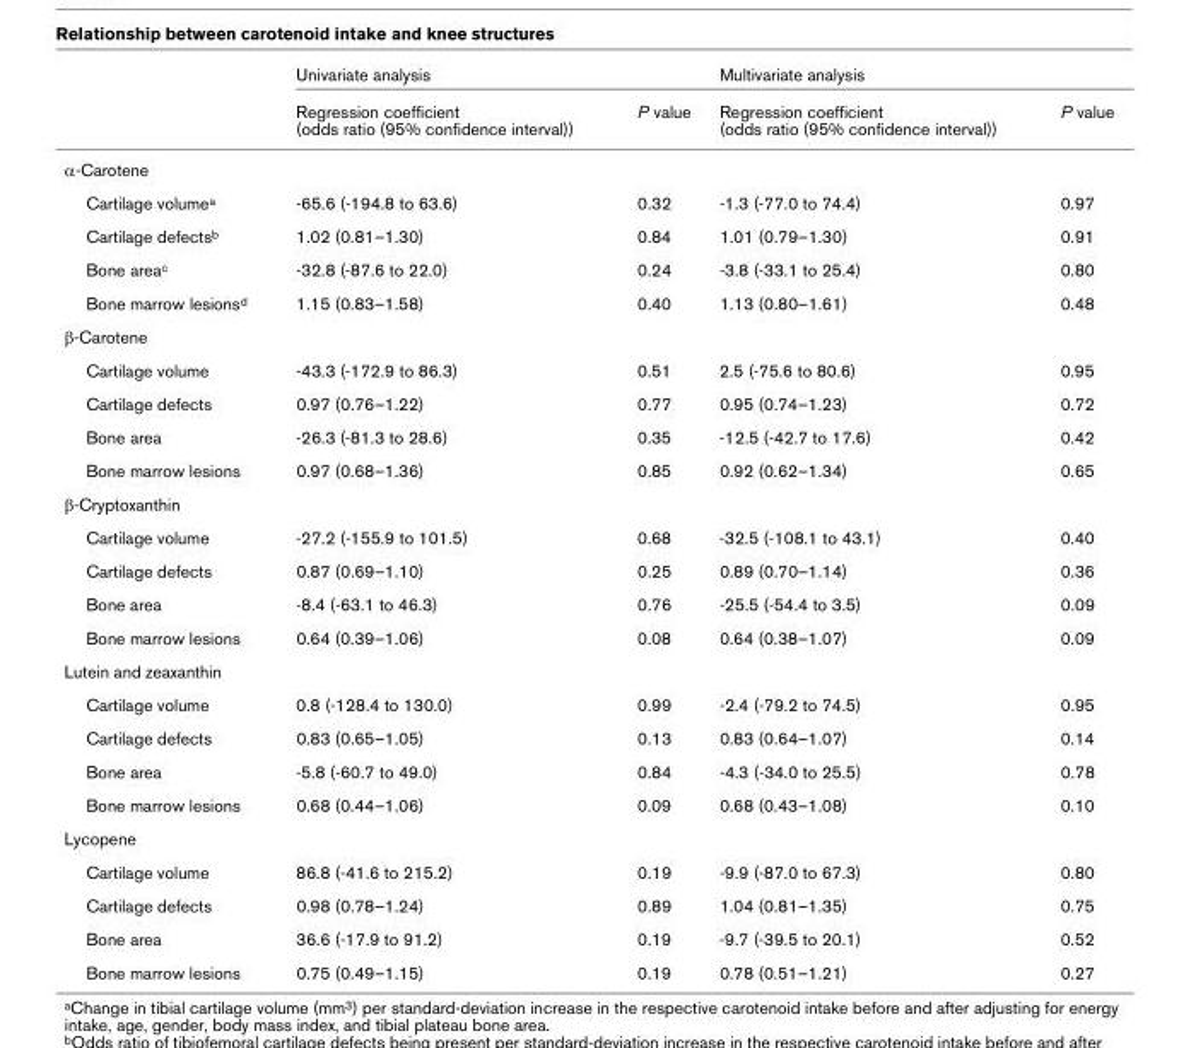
<table><thead><tr><td rowspan="2"></td><td colspan="2">Univariate analysis</td><td colspan="2">Multivariate analysis</td></tr><tr><td>Regression coefficient (odds ratio (95% confidence interval))</td><td>P value</td><td>Regression coefficient (odds ratio (95% confidence interval))</td><td>P value</td></tr></thead><tbody><tr><td colspan="5">α-Carotene</td></tr><tr><td>Cartilage volume<sup>a</sup></td><td>-65.6 (-194.8 to 63.6)</td><td>0.32</td><td>-1.3 (-77.0 to 74.4)</td><td>0.97</td></tr><tr><td>Cartilage defects<sup>b</sup></td><td>1.02 (0.81–1.30)</td><td>0.84</td><td>1.01 (0.79–1.30)</td><td>0.91</td></tr><tr><td>Bone area<sup>c</sup></td><td>-32.8 (-87.6 to 22.0)</td><td>0.24</td><td>-3.8 (-33.1 to 25.4)</td><td>0.80</td></tr><tr><td>Bone marrow lesions<sup>d</sup></td><td>1.15 (0.83–1.58)</td><td>0.40</td><td>1.13 (0.80–1.61)</td><td>0.48</td></tr><tr><td colspan="5">β-Carotene</td></tr><tr><td>Cartilage volume</td><td>-43.3 (-172.9 to 86.3)</td><td>0.51</td><td>2.5 (-75.6 to 80.6)</td><td>0.95</td></tr><tr><td>Cartilage defects</td><td>0.97 (0.76–1.22)</td><td>0.77</td><td>0.95 (0.74–1.23)</td><td>0.72</td></tr><tr><td>Bone area</td><td>-26.3 (-81.3 to 28.6)</td><td>0.35</td><td>-12.5 (-42.7 to 17.6)</td><td>0.42</td></tr><tr><td>Bone marrow lesions</td><td>0.97 (0.68–1.36)</td><td>0.85</td><td>0.92 (0.62–1.34)</td><td>0.65</td></tr><tr><td colspan="5">β-Cryptoxanthin</td></tr><tr><td>Cartilage volume</td><td>-27.2 (-155.9 to 101.5)</td><td>0.68</td><td>-32.5 (-108.1 to 43.1)</td><td>0.40</td></tr><tr><td>Cartilage defects</td><td>0.87 (0.69–1.10)</td><td>0.25</td><td>0.89 (0.70–1.14)</td><td>0.36</td></tr><tr><td>Bone area</td><td>-8.4 (-63.1 to 46.3)</td><td>0.76</td><td>-25.5 (-54.4 to 3.5)</td><td>0.09</td></tr><tr><td>Bone marrow lesions</td><td>0.64 (0.39–1.06)</td><td>0.08</td><td>0.64 (0.38–1.07)</td><td>0.09</td></tr><tr><td colspan="5">Lutein and zeaxanthin</td></tr><tr><td>Cartilage volume</td><td>0.8 (-128.4 to 130.0)</td><td>0.99</td><td>-2.4 (-79.2 to 74.5)</td><td>0.95</td></tr><tr><td>Cartilage defects</td><td>0.83 (0.65–1.05)</td><td>0.13</td><td>0.83 (0.64–1.07)</td><td>0.14</td></tr><tr><td>Bone area</td><td>-5.8 (-60.7 to 49.0)</td><td>0.84</td><td>-4.3 (-34.0 to 25.5)</td><td>0.78</td></tr><tr><td>Bone marrow lesions</td><td>0.68 (0.44–1.06)</td><td>0.09</td><td>0.68 (0.43–1.08)</td><td>0.10</td></tr><tr><td colspan="5">Lycopene</td></tr><tr><td>Cartilage volume</td><td>86.8 (-41.6 to 215.2)</td><td>0.19</td><td>-9.9 (-87.0 to 67.3)</td><td>0.80</td></tr><tr><td>Cartilage defects</td><td>0.98 (0.78–1.24)</td><td>0.89</td><td>1.04 (0.81–1.35)</td><td>0.75</td></tr><tr><td>Bone area</td><td>36.6 (-17.9 to 91.2)</td><td>0.19</td><td>-9.7 (-39.5 to 20.1)</td><td>0.52</td></tr><tr><td>Bone marrow lesions</td><td>0.75 (0.49–1.15)</td><td>0.19</td><td>0.78 (0.51–1.21)</td><td>0.27</td></tr></tbody></table>